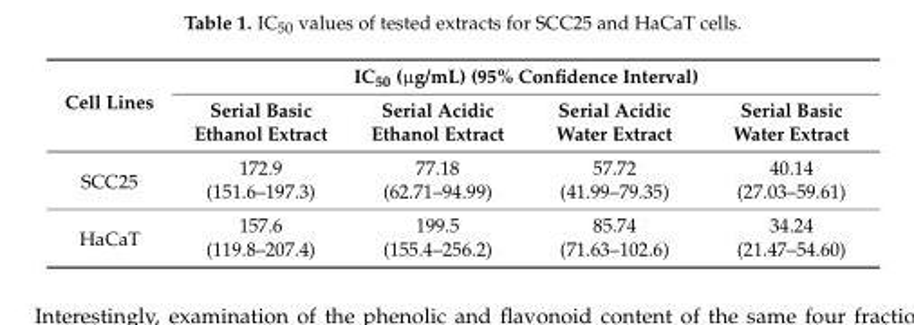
<table><thead><tr><td rowspan="2">Cell Lines</td><td colspan="4">IC<sub>50</sub> (µg/mL) (95% Confidence Interval)</td></tr><tr><td>Serial Basic Ethanol Extract</td><td>Serial Acidic Ethanol Extract</td><td>Serial Acidic Water Extract</td><td>Serial Basic Water Extract</td></tr></thead><tbody><tr><td rowspan="2">SCC25</td><td>172.9</td><td>77.18</td><td>57.72</td><td>40.14</td></tr><tr><td>(151.6–197.3)</td><td>(62.71–94.99)</td><td>(41.99–79.35)</td><td>(27.03–59.61)</td></tr><tr><td rowspan="2">HaCaT</td><td>157.6</td><td>199.5</td><td>85.74</td><td>34.24</td></tr><tr><td>(119.8–207.4)</td><td>(155.4–256.2)</td><td>(71.63–102.6)</td><td>(21.47–54.60)</td></tr></tbody></table>